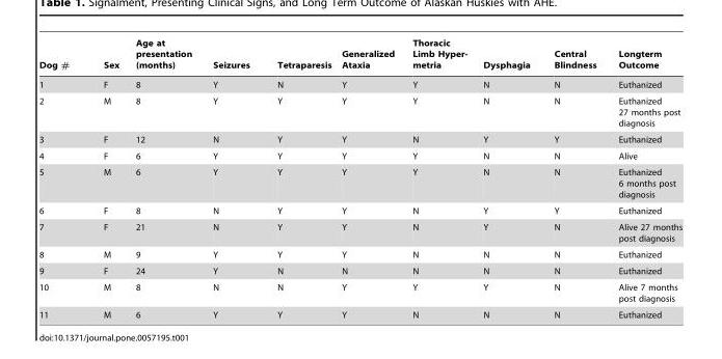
<table><thead><tr><td>Dog #</td><td>Sex</td><td>Age at presentation (months)</td><td>Seizures</td><td>Tetraparesis</td><td>Generalized Ataxia</td><td>Thoracic Limb Hyper- metria</td><td>Dysphagia</td><td>Central Blindness</td><td>Longterm Outcome</td></tr></thead><tbody><tr><td>1</td><td>F</td><td>8</td><td>Y</td><td>N</td><td>Y</td><td>Y</td><td>N</td><td>N</td><td>Euthanized</td></tr><tr><td>2</td><td>M</td><td>8</td><td>Y</td><td>Y</td><td>Y</td><td>Y</td><td>N</td><td>N</td><td>Euthanized 27 months post diagnosis</td></tr><tr><td>3</td><td>F</td><td>12</td><td>N</td><td>Y</td><td>Y</td><td>N</td><td>Y</td><td>Y</td><td>Euthanized</td></tr><tr><td>4</td><td>F</td><td>6</td><td>Y</td><td>Y</td><td>Y</td><td>Y</td><td>N</td><td>N</td><td>Alive</td></tr><tr><td>5</td><td>M</td><td>6</td><td>Y</td><td>Y</td><td>Y</td><td>Y</td><td>N</td><td>N</td><td>Euthanized 6 months post diagnosis</td></tr><tr><td>6</td><td>F</td><td>8</td><td>N</td><td>Y</td><td>Y</td><td>N</td><td>Y</td><td>Y</td><td>Euthanized</td></tr><tr><td>7</td><td>F</td><td>21</td><td>N</td><td>Y</td><td>Y</td><td>N</td><td>Y</td><td>N</td><td>Alive 27 months post diagnosis</td></tr><tr><td>8</td><td>M</td><td>9</td><td>Y</td><td>Y</td><td>Y</td><td>N</td><td>N</td><td>N</td><td>Euthanized</td></tr><tr><td>9</td><td>F</td><td>24</td><td>Y</td><td>N</td><td>N</td><td>N</td><td>N</td><td>N</td><td>Euthanized</td></tr><tr><td>10</td><td>M</td><td>8</td><td>N</td><td>N</td><td>Y</td><td>Y</td><td>Y</td><td>N</td><td>Alive 7 months post diagnosis</td></tr><tr><td>11</td><td>M</td><td>6</td><td>Y</td><td>Y</td><td>Y</td><td>N</td><td>N</td><td>N</td><td>Euthanized</td></tr></tbody></table>